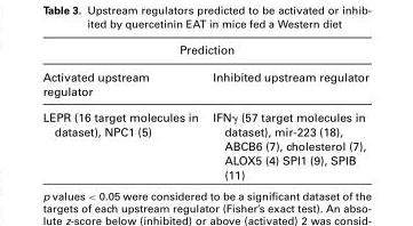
<table><thead><tr><td colspan="2">Prediction</td></tr><tr><td>Activated upstream regulator</td><td>Inhibited upstream regulator</td></tr></thead><tbody><tr><td>LEPR (16 target molecules in dataset), NPC1 (5)</td><td>IFNγ (57 target molecules in dataset), mir-223 (18), ABCB6 (7), cholesterol (7), ALOX5 (4) SPI1 (9), SPIB (11)</td></tr></tbody></table>